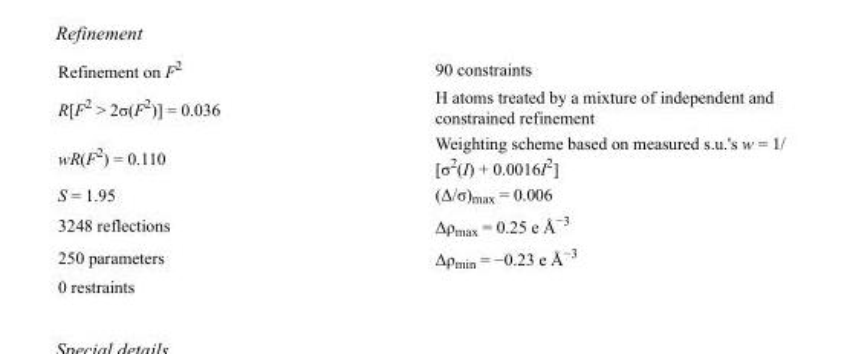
<table><tbody><tr><td>Refinement on F<sup>2</sup></td><td>90 constraints</td></tr><tr><td>R[F<sup>2</sup> &gt; 2σ(F<sup>2</sup>)] = 0.036</td><td>H atoms treated by a mixture of independent and constrained refinement</td></tr><tr><td>wR(F<sup>2</sup>) = 0.110</td><td>Weighting scheme based on measured s.u.&#x27;s w = 1/ [σ<sup>2</sup>(I) + 0.0016I<sup>2</sup>]</td></tr><tr><td>S = 1.95</td><td>(Δ/σ)<sub>max</sub> = 0.006</td></tr><tr><td>3248 reflections</td><td>Δρ<sub>max</sub> = 0.25 e Å<sup>−3</sup></td></tr><tr><td>250 parameters</td><td>Δρ<sub>min</sub> = −0.23 e Å<sup>−3</sup></td></tr><tr><td>0 restraints</td><td></td></tr></tbody></table>